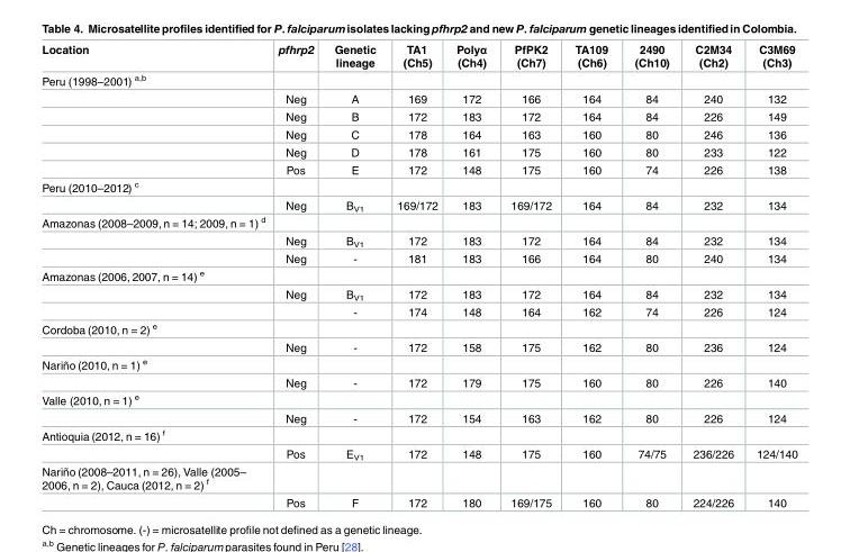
<table><thead><tr><td>Location</td><td>pfhrp2</td><td>Genetic lineage</td><td>TA1 (Ch5)</td><td>Polyα (Ch4)</td><td>PfPK2 (Ch7)</td><td>TA109 (Ch6)</td><td>2490 (Ch10)</td><td>C2M34 (Ch2)</td><td>C3M69 (Ch3)</td></tr></thead><tbody><tr><td colspan="10">Peru (1998–2001) <sup>a,b</sup></td></tr><tr><td></td><td>Neg</td><td>A</td><td>169</td><td>172</td><td>166</td><td>164</td><td>84</td><td>240</td><td>132</td></tr><tr><td></td><td>Neg</td><td>B</td><td>172</td><td>183</td><td>172</td><td>164</td><td>84</td><td>226</td><td>149</td></tr><tr><td></td><td>Neg</td><td>C</td><td>178</td><td>164</td><td>163</td><td>160</td><td>80</td><td>246</td><td>136</td></tr><tr><td></td><td>Neg</td><td>D</td><td>178</td><td>161</td><td>175</td><td>160</td><td>80</td><td>233</td><td>122</td></tr><tr><td></td><td>Pos</td><td>E</td><td>172</td><td>148</td><td>175</td><td>160</td><td>74</td><td>226</td><td>138</td></tr><tr><td colspan="10">Peru (2010–2012) <sup>c</sup></td></tr><tr><td></td><td>Neg</td><td>B<sub>V1</sub></td><td>169/172</td><td>183</td><td>169/172</td><td>164</td><td>84</td><td>232</td><td>134</td></tr><tr><td colspan="10">Amazonas (2008–2009, n = 14; 2009, n = 1) <sup>d</sup></td></tr><tr><td></td><td>Neg</td><td>B<sub>V1</sub></td><td>172</td><td>183</td><td>172</td><td>164</td><td>84</td><td>232</td><td>134</td></tr><tr><td></td><td>Neg</td><td>-</td><td>181</td><td>183</td><td>166</td><td>164</td><td>80</td><td>240</td><td>134</td></tr><tr><td colspan="10">Amazonas (2006, 2007, n = 14) <sup>e</sup></td></tr><tr><td></td><td>Neg</td><td>B<sub>V1</sub></td><td>172</td><td>183</td><td>172</td><td>164</td><td>84</td><td>232</td><td>134</td></tr><tr><td></td><td></td><td>-</td><td>174</td><td>148</td><td>164</td><td>162</td><td>74</td><td>226</td><td>124</td></tr><tr><td colspan="10">Cordoba (2010, n = 2) <sup>e</sup></td></tr><tr><td></td><td>Neg</td><td>-</td><td>172</td><td>158</td><td>175</td><td>162</td><td>80</td><td>236</td><td>124</td></tr><tr><td colspan="10">Nariño (2010, n = 1) <sup>e</sup></td></tr><tr><td></td><td>Neg</td><td>-</td><td>172</td><td>179</td><td>175</td><td>160</td><td>80</td><td>226</td><td>140</td></tr><tr><td colspan="10">Valle (2010, n = 1) <sup>e</sup></td></tr><tr><td></td><td>Neg</td><td>-</td><td>172</td><td>154</td><td>163</td><td>162</td><td>80</td><td>226</td><td>124</td></tr><tr><td colspan="10">Antioquia (2012, n = 16) <sup>f</sup></td></tr><tr><td></td><td>Pos</td><td>E<sub>V1</sub></td><td>172</td><td>148</td><td>175</td><td>160</td><td>74/75</td><td>236/226</td><td>124/140</td></tr><tr><td colspan="10">Nariño (2008–2011, n = 26), Valle (2005– 2006, n = 2), Cauca (2012, n = 2) <sup>f</sup></td></tr><tr><td></td><td>Pos</td><td>F</td><td>172</td><td>180</td><td>169/175</td><td>160</td><td>80</td><td>224/226</td><td>140</td></tr></tbody></table>